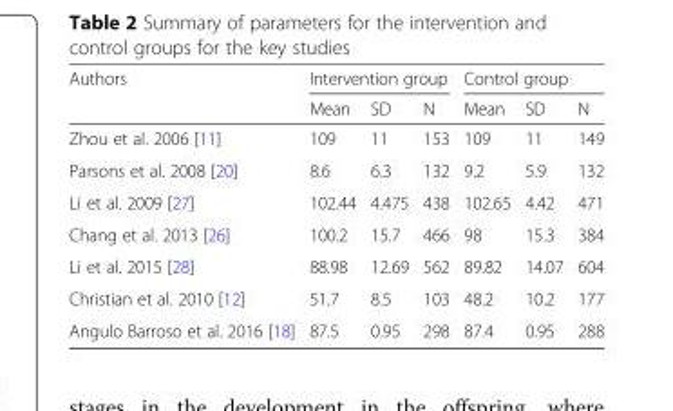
<table><thead><tr><td rowspan="2">Authors</td><td colspan="3">Intervention group</td><td colspan="3">Control group</td></tr><tr><td>Mean</td><td>SD</td><td>N</td><td>Mean</td><td>SD</td><td>N</td></tr></thead><tbody><tr><td>Zhou et al. 2006 [11]</td><td>109</td><td>11</td><td>153</td><td>109</td><td>11</td><td>149</td></tr><tr><td>Parsons et al. 2008 [20]</td><td>8.6</td><td>6.3</td><td>132</td><td>9.2</td><td>5.9</td><td>132</td></tr><tr><td>Li et al. 2009 [27]</td><td>102.44</td><td>4.475</td><td>438</td><td>102.65</td><td>4.42</td><td>471</td></tr><tr><td>Chang et al. 2013 [26]</td><td>100.2</td><td>15.7</td><td>466</td><td>98</td><td>15.3</td><td>384</td></tr><tr><td>Li et al. 2015 [28]</td><td>88.98</td><td>12.69</td><td>562</td><td>89.82</td><td>14.07</td><td>604</td></tr><tr><td>Christian et al. 2010 [12]</td><td>51.7</td><td>8.5</td><td>103</td><td>48.2</td><td>10.2</td><td>177</td></tr><tr><td>Angulo Barroso et al. 2016 [18]</td><td>87.5</td><td>0.95</td><td>298</td><td>87.4</td><td>0.95</td><td>288</td></tr></tbody></table>